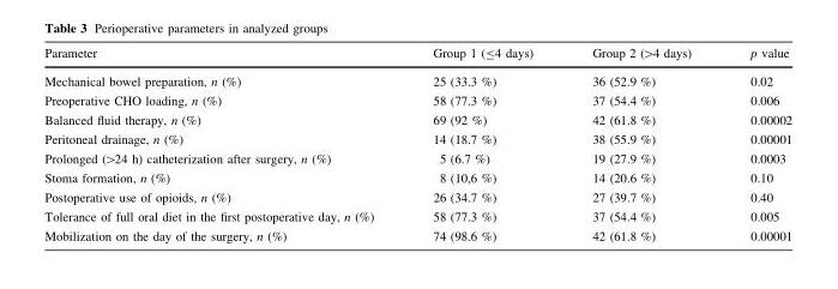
<table><thead><tr><td>Parameter</td><td>Group 1 (≤4 days)</td><td>Group 2 (&gt;4 days)</td><td>p value</td></tr></thead><tbody><tr><td>Mechanical bowel preparation, n (%)</td><td>25 (33.3 %)</td><td>36 (52.9 %)</td><td>0.02</td></tr><tr><td>Preoperative CHO loading, n (%)</td><td>58 (77.3 %)</td><td>37 (54.4 %)</td><td>0.006</td></tr><tr><td>Balanced fluid therapy, n (%)</td><td>69 (92 %)</td><td>42 (61.8 %)</td><td>0.00002</td></tr><tr><td>Peritoneal drainage, n (%)</td><td>14 (18.7 %)</td><td>38 (55.9 %)</td><td>0.00001</td></tr><tr><td>Prolonged (&gt;24 h) catheterization after surgery, n (%)</td><td>5 (6.7 %)</td><td>19 (27.9 %)</td><td>0.0003</td></tr><tr><td>Stoma formation, n (%)</td><td>8 (10,6 %)</td><td>14 (20.6 %)</td><td>0.10</td></tr><tr><td>Postoperative use of opioids, n (%)</td><td>26 (34.7 %)</td><td>27 (39.7 %)</td><td>0.40</td></tr><tr><td>Tolerance of full oral diet in the first postoperative day, n (%)</td><td>58 (77.3 %)</td><td>37 (54.4 %)</td><td>0.005</td></tr><tr><td>Mobilization on the day of the surgery, n (%)</td><td>74 (98.6 %)</td><td>42 (61.8 %)</td><td>0.00001</td></tr></tbody></table>